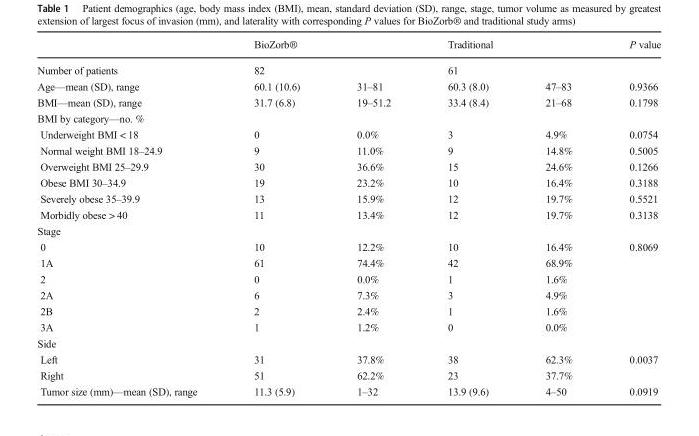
<table><thead><tr><td rowspan="3">Number of patients Age—mean (SD), range</td><td rowspan="2" colspan="2">BioZorb® 82</td><td rowspan="2" colspan="2">Traditional 61</td><td rowspan="3">P value 0.9366</td></tr><tr></tr><tr><td>60.1 (10.6)</td><td>31–81</td><td>60.3 (8.0)</td><td>47–83</td></tr></thead><tbody><tr><td>BMI—mean (SD), range</td><td>31.7 (6.8)</td><td>19–51.2</td><td>33.4 (8.4)</td><td>21–68</td><td>0.1798</td></tr><tr><td colspan="6">BMI by category—no. %</td></tr><tr><td>Underweight BMI &lt; 18</td><td>0</td><td>0.0%</td><td>3</td><td>4.9%</td><td>0.0754</td></tr><tr><td>Normal weight BMI 18–24.9</td><td>9</td><td>11.0%</td><td>9</td><td>14.8%</td><td>0.5005</td></tr><tr><td>Overweight BMI 25–29.9</td><td>30</td><td>36.6%</td><td>15</td><td>24.6%</td><td>0.1266</td></tr><tr><td>Obese BMI 30–34.9</td><td>19</td><td>23.2%</td><td>10</td><td>16.4%</td><td>0.3188</td></tr><tr><td>Severely obese 35–39.9</td><td>13</td><td>15.9%</td><td>12</td><td>19.7%</td><td>0.5521</td></tr><tr><td>Morbidly obese &gt; 40</td><td>11</td><td>13.4%</td><td>12</td><td>19.7%</td><td>0.3138</td></tr><tr><td colspan="6">Stage</td></tr><tr><td>0</td><td>10</td><td>12.2%</td><td>10</td><td>16.4%</td><td>0.8069</td></tr><tr><td>1A</td><td>61</td><td>74.4%</td><td>42</td><td>68.9%</td><td></td></tr><tr><td>2</td><td>0</td><td>0.0%</td><td>1</td><td>1.6%</td><td></td></tr><tr><td>2A</td><td>6</td><td>7.3%</td><td>3</td><td>4.9%</td><td></td></tr><tr><td>2B</td><td>2</td><td>2.4%</td><td>1</td><td>1.6%</td><td></td></tr><tr><td>3A</td><td>1</td><td>1.2%</td><td>0</td><td>0.0%</td><td></td></tr><tr><td colspan="6">Side</td></tr><tr><td>Left</td><td>31</td><td>37.8%</td><td>38</td><td>62.3%</td><td>0.0037</td></tr><tr><td>Right</td><td>51</td><td>62.2%</td><td>23</td><td>37.7%</td><td></td></tr><tr><td>Tumor size (mm)—mean (SD), range</td><td>11.3 (5.9)</td><td>1–32</td><td>13.9 (9.6)</td><td>4–50</td><td>0.0919</td></tr></tbody></table>